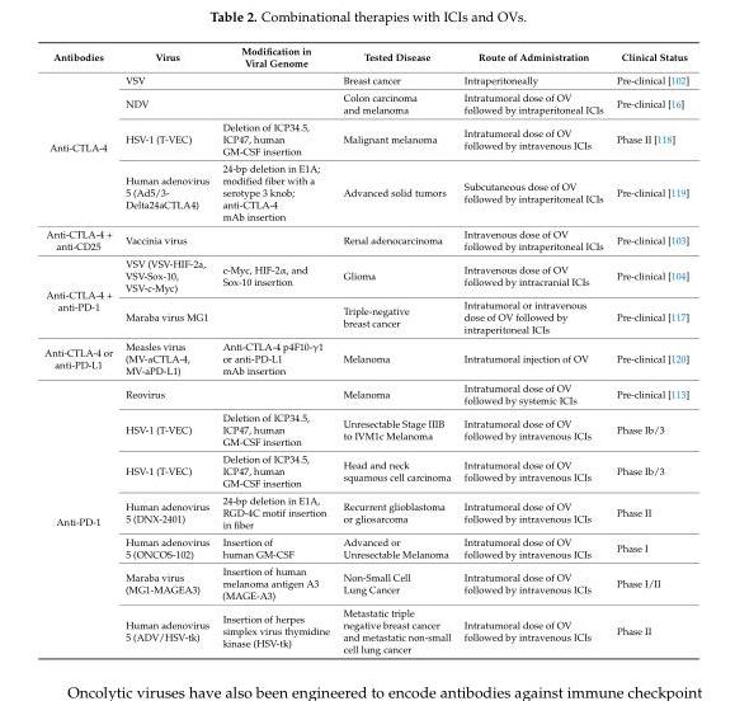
<table><thead><tr><td>Antibodies</td><td>Virus</td><td>Modification in Viral Genome</td><td>Tested Disease</td><td>Route of Administration</td><td>Clinical Status</td></tr></thead><tbody><tr><td rowspan="4">Anti-CTLA-4</td><td>VSV</td><td></td><td>Breast cancer</td><td>Intraperitoneally</td><td>Pre-clinical [102]</td></tr><tr><td>NDV</td><td></td><td>Colon carcinoma and melanoma</td><td>Intratumoral dose of OV followed by intraperitoneal ICIs</td><td>Pre-clinical [16]</td></tr><tr><td>HSV-1 (T-VEC)</td><td>Deletion of ICP34.5, ICP47, human GM-CSF insertion</td><td>Malignant melanoma</td><td>Intratumoral dose of OV followed by intravenous ICIs</td><td>Phase II [118]</td></tr><tr><td>Human adenovirus 5 (Ad5/3- Delta24aCTLA4)</td><td>24-bp deletion in E1A; modified fiber with a serotype 3 knob; anti-CTLA-4 mAb insertion</td><td>Advanced solid tumors</td><td>Subcutaneous dose of OV followed by intraperitoneal ICIs</td><td>Pre-clinical [119]</td></tr><tr><td>Anti-CTLA-4 + anti-CD25</td><td>Vaccinia virus</td><td></td><td>Renal adenocarcinoma</td><td>Intravenous dose of OV followed by intraperitoneal ICIs</td><td>Pre-clinical [103]</td></tr><tr><td rowspan="2">Anti-CTLA-4 + anti-PD-1</td><td>VSV (VSV-HIF-2a, VSV-Sox-10, VSV-c-Myc)</td><td>c-Myc, HIF-2α, and Sox-10 insertion</td><td>Glioma</td><td>Intravenous dose of OV followed by intracranial ICIs</td><td>Pre-clinical [104]</td></tr><tr><td>Maraba virus MG1</td><td></td><td>Triple-negative breast cancer</td><td>Intratumoral or intravenous dose of OV followed by intraperitoneal ICIs</td><td>Pre-clinical [117]</td></tr><tr><td>Anti-CTLA-4 or anti-PD-L1</td><td>Measles virus (MV-aCTLA-4, MV-aPD-L1)</td><td>Anti-CTLA-4 p4F10-γ1 or anti-PD-L1 mAb insertion</td><td>Melanoma</td><td>Intratumoral injection of OV</td><td>Pre-clinical [120]</td></tr><tr><td rowspan="7">Anti-PD-1</td><td>Reovirus</td><td></td><td>Melanoma</td><td>Intratumoral dose of OV followed by systemic ICIs</td><td>Pre-clinical [113]</td></tr><tr><td>HSV-1 (T-VEC)</td><td>Deletion of ICP34.5, ICP47, human GM-CSF insertion</td><td>Unresectable Stage IIIB to IVM1c Melanoma</td><td>Intratumoral dose of OV followed by intravenous ICIs</td><td>Phase Ib/3</td></tr><tr><td>HSV-1 (T-VEC)</td><td>Deletion of ICP34.5, ICP47, human GM-CSF insertion</td><td>Head and neck squamous cell carcinoma</td><td>Intratumoral dose of OV followed by intravenous ICIs</td><td>Phase Ib/3</td></tr><tr><td>Human adenovirus 5 (DNX-2401)</td><td>24-bp deletion in E1A, RGD-4C motif insertion in fiber</td><td>Recurrent glioblastoma or gliosarcoma</td><td>Intratumoral dose of OV followed by intravenous ICIs</td><td>Phase II</td></tr><tr><td>Human adenovirus 5 (ONCOS-102)</td><td>Insertion of human GM-CSF</td><td>Advanced or Unresectable Melanoma</td><td>Intratumoral dose of OV followed by intravenous ICIs</td><td>Phase I</td></tr><tr><td>Maraba virus (MG1-MAGEA3)</td><td>Insertion of human melanoma antigen A3 (MAGE-A3)</td><td>Non-Small Cell Lung Cancer</td><td>Intratumoral dose of OV followed by intravenous ICIs</td><td>Phase I/II</td></tr><tr><td>Human adenovirus 5 (ADV/HSV-tk)</td><td>Insertion of herpes simplex virus thymidine kinase (HSV-tk)</td><td>Metastatic triple negative breast cancer and metastatic non-small cell lung cancer</td><td>Intratumoral dose of OV followed by intravenous ICIs</td><td>Phase II</td></tr></tbody></table>